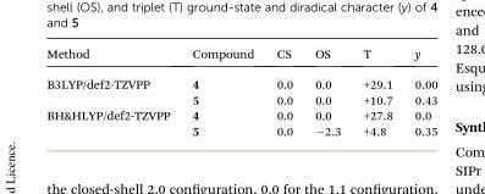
<table><thead><tr><td>Method</td><td>Compound</td><td>CS</td><td>OS</td><td>T</td><td>y</td></tr></thead><tbody><tr><td rowspan="2">B3LYP/def2-TZVPP</td><td>4</td><td>0.0</td><td>0.0</td><td>+29.1</td><td>0.00</td></tr><tr><td>5</td><td>0.0</td><td>0.0</td><td>+10.7</td><td>0.43</td></tr><tr><td rowspan="2">BH&amp;HLYP/def2-TZVPP</td><td>4</td><td>0.0</td><td>0.0</td><td>+27.8</td><td>0.0</td></tr><tr><td>5</td><td>0.0</td><td>–2.3</td><td>+4.8</td><td>0.35</td></tr></tbody></table>